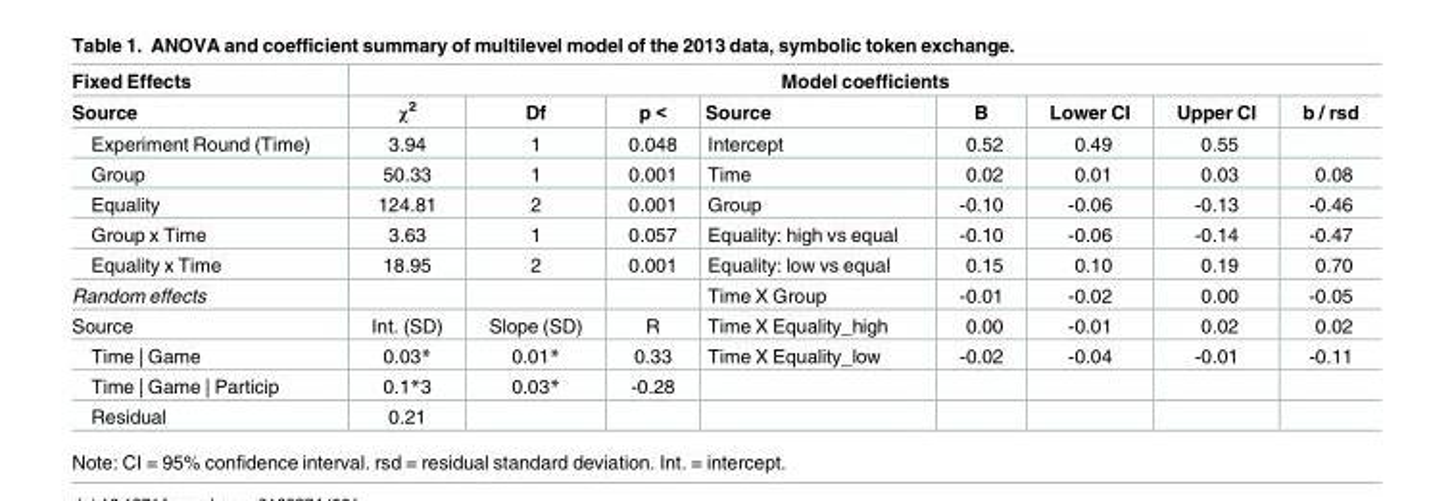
<table><thead><tr><td rowspan="2">Fixed Effects Source</td><td colspan="8">Model coefficients</td></tr><tr><td>χ<sup>2</sup></td><td>Df</td><td>p &lt;</td><td>Source</td><td>B</td><td>Lower CI</td><td>Upper CI</td><td>b / rsd</td></tr></thead><tbody><tr><td>Experiment Round (Time)</td><td>3.94</td><td>1</td><td>0.048</td><td>Intercept</td><td>0.52</td><td>0.49</td><td>0.55</td><td></td></tr><tr><td>Group</td><td>50.33</td><td>1</td><td>0.001</td><td>Time</td><td>0.02</td><td>0.01</td><td>0.03</td><td>0.08</td></tr><tr><td>Equality</td><td>124.81</td><td>2</td><td>0.001</td><td>Group</td><td>-0.10</td><td>-0.06</td><td>-0.13</td><td>-0.46</td></tr><tr><td>Group x Time</td><td>3.63</td><td>1</td><td>0.057</td><td>Equality: high vs equal</td><td>-0.10</td><td>-0.06</td><td>-0.14</td><td>-0.47</td></tr><tr><td>Equality x Time</td><td>18.95</td><td>2</td><td>0.001</td><td>Equality: low vs equal</td><td>0.15</td><td>0.10</td><td>0.19</td><td>0.70</td></tr><tr><td>Random effects</td><td></td><td></td><td></td><td>Time X Group</td><td>-0.01</td><td>-0.02</td><td>0.00</td><td>-0.05</td></tr><tr><td>Source</td><td>Int. (SD)</td><td>Slope (SD)</td><td>R</td><td>Time X Equality_high</td><td>0.00</td><td>-0.01</td><td>0.02</td><td>0.02</td></tr><tr><td>Time | Game</td><td>0.03*</td><td>0.01*</td><td>0.33</td><td>Time X Equality_low</td><td>-0.02</td><td>-0.04</td><td>-0.01</td><td>-0.11</td></tr><tr><td>Time | Game | Particip</td><td>0.1*3</td><td>0.03*</td><td>-0.28</td><td></td><td></td><td></td><td></td><td></td></tr><tr><td>Residual</td><td>0.21</td><td></td><td></td><td></td><td></td><td></td><td></td><td></td></tr></tbody></table>